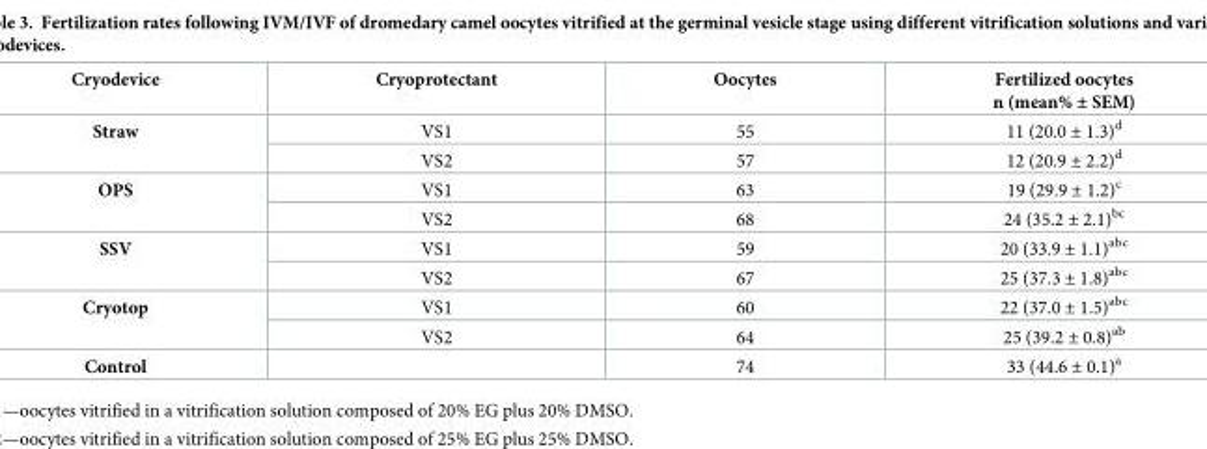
<table><thead><tr><td>Cryodevice</td><td>Cryoprotectant</td><td>Oocytes</td><td>Fertilized oocytes n (mean% ± SEM)</td></tr></thead><tbody><tr><td rowspan="2">Straw</td><td>VS1</td><td>55</td><td>11 (20.0 ± 1.3)<sup>d</sup></td></tr><tr><td>VS2</td><td>57</td><td>12 (20.9 ± 2.2)<sup>d</sup></td></tr><tr><td rowspan="2">OPS</td><td>VS1</td><td>63</td><td>19 (29.9 ± 1.2)<sup>c</sup></td></tr><tr><td>VS2</td><td>68</td><td>24 (35.2 ± 2.1)<sup>bc</sup></td></tr><tr><td rowspan="2">SSV</td><td>VS1</td><td>59</td><td>20 (33.9 ± 1.1)<sup>abc</sup></td></tr><tr><td>VS2</td><td>67</td><td>25 (37.3 ± 1.8)<sup>abc</sup></td></tr><tr><td rowspan="2">Cryotop</td><td>VS1</td><td>60</td><td>22 (37.0 ± 1.5)<sup>abc</sup></td></tr><tr><td>VS2</td><td>64</td><td>25 (39.2 ± 0.8)<sup>ab</sup></td></tr><tr><td>Control</td><td></td><td>74</td><td>33 (44.6 ± 0.1)<sup>a</sup></td></tr></tbody></table>